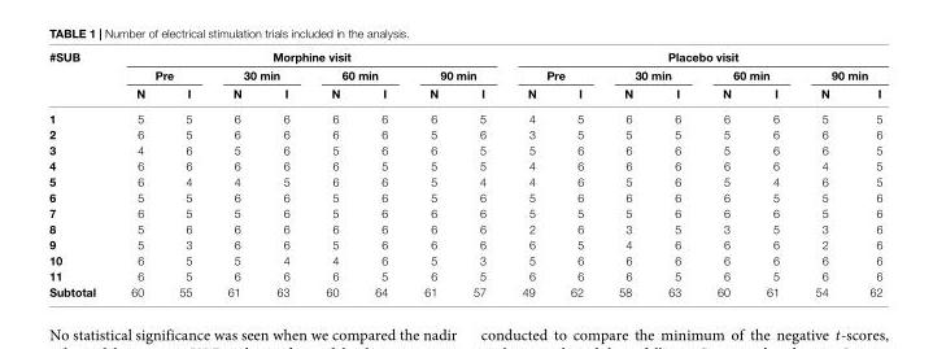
<table><thead><tr><td rowspan="3">#SUB</td><td colspan="8">Morphine visit</td><td colspan="8">Placebo visit</td></tr><tr><td colspan="2">Pre</td><td colspan="2">30 min</td><td colspan="2">60 min</td><td colspan="2">90 min</td><td colspan="2">Pre</td><td colspan="2">30 min</td><td colspan="2">60 min</td><td colspan="2">90 min</td></tr><tr><td>N</td><td>I</td><td>N</td><td>I</td><td>N</td><td>I</td><td>N</td><td>I</td><td>N</td><td>I</td><td>N</td><td>I</td><td>N</td><td>I</td><td>N</td><td>I</td></tr></thead><tbody><tr><td>1</td><td>5</td><td>5</td><td>6</td><td>6</td><td>6</td><td>6</td><td>6</td><td>5</td><td>4</td><td>5</td><td>6</td><td>6</td><td>6</td><td>6</td><td>5</td><td>5</td></tr><tr><td>2</td><td>6</td><td>5</td><td>6</td><td>6</td><td>6</td><td>6</td><td>5</td><td>6</td><td>3</td><td>5</td><td>5</td><td>5</td><td>5</td><td>6</td><td>6</td><td>6</td></tr><tr><td>3</td><td>4</td><td>6</td><td>5</td><td>6</td><td>5</td><td>6</td><td>6</td><td>5</td><td>5</td><td>6</td><td>6</td><td>6</td><td>5</td><td>6</td><td>6</td><td>5</td></tr><tr><td>4</td><td>6</td><td>6</td><td>6</td><td>6</td><td>6</td><td>5</td><td>5</td><td>5</td><td>4</td><td>6</td><td>6</td><td>6</td><td>6</td><td>6</td><td>4</td><td>5</td></tr><tr><td>5</td><td>6</td><td>4</td><td>4</td><td>5</td><td>6</td><td>6</td><td>5</td><td>4</td><td>4</td><td>6</td><td>5</td><td>6</td><td>5</td><td>4</td><td>6</td><td>5</td></tr><tr><td>6</td><td>5</td><td>5</td><td>6</td><td>6</td><td>5</td><td>6</td><td>5</td><td>6</td><td>5</td><td>6</td><td>6</td><td>6</td><td>6</td><td>5</td><td>5</td><td>6</td></tr><tr><td>7</td><td>6</td><td>5</td><td>5</td><td>6</td><td>5</td><td>6</td><td>6</td><td>6</td><td>5</td><td>5</td><td>5</td><td>6</td><td>6</td><td>6</td><td>5</td><td>6</td></tr><tr><td>8</td><td>5</td><td>6</td><td>6</td><td>6</td><td>6</td><td>6</td><td>6</td><td>6</td><td>2</td><td>6</td><td>3</td><td>5</td><td>3</td><td>5</td><td>3</td><td>6</td></tr><tr><td>9</td><td>5</td><td>3</td><td>6</td><td>6</td><td>5</td><td>6</td><td>6</td><td>6</td><td>6</td><td>5</td><td>4</td><td>6</td><td>6</td><td>6</td><td>2</td><td>6</td></tr><tr><td>10</td><td>6</td><td>5</td><td>5</td><td>4</td><td>4</td><td>6</td><td>5</td><td>3</td><td>5</td><td>6</td><td>6</td><td>6</td><td>6</td><td>6</td><td>6</td><td>6</td></tr><tr><td>11</td><td>6</td><td>5</td><td>6</td><td>6</td><td>6</td><td>5</td><td>6</td><td>5</td><td>6</td><td>6</td><td>6</td><td>5</td><td>6</td><td>5</td><td>6</td><td>6</td></tr><tr><td>Subtotal</td><td>60</td><td>55</td><td>61</td><td>63</td><td>60</td><td>64</td><td>61</td><td>57</td><td>49</td><td>62</td><td>58</td><td>63</td><td>60</td><td>61</td><td>54</td><td>62</td></tr></tbody></table>